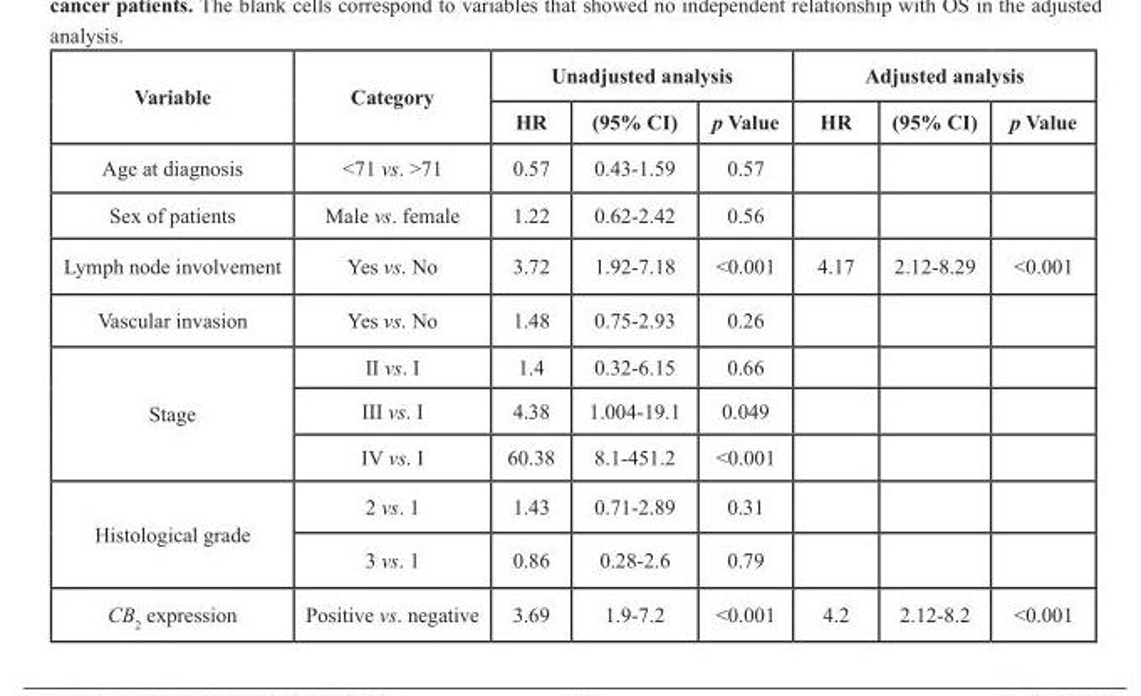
<table><thead><tr><td rowspan="2">Variable</td><td rowspan="2">Category</td><td colspan="3">Unadjusted analysis</td><td colspan="3">Adjusted analysis</td></tr><tr><td>HR</td><td>(95% CI)</td><td>p Value</td><td>HR</td><td>(95% CI)</td><td>p Value</td></tr></thead><tbody><tr><td>Age at diagnosis</td><td>&lt;71 vs. &gt;71</td><td>0.57</td><td>0.43-1.59</td><td>0.57</td><td></td><td></td><td></td></tr><tr><td>Sex of patients</td><td>Male vs. female</td><td>1.22</td><td>0.62-2.42</td><td>0.56</td><td></td><td></td><td></td></tr><tr><td>Lymph node involvement</td><td>Yes vs. No</td><td>3.72</td><td>1.92-7.18</td><td>&lt;0.001</td><td>4.17</td><td>2.12-8.29</td><td>&lt;0.001</td></tr><tr><td>Vascular invasion</td><td>Yes vs. No</td><td>1.48</td><td>0.75-2.93</td><td>0.26</td><td></td><td></td><td></td></tr><tr><td rowspan="3">Stage</td><td>II vs. I</td><td>1.4</td><td>0.32-6.15</td><td>0.66</td><td></td><td></td><td></td></tr><tr><td>III vs. I</td><td>4.38</td><td>1.004-19.1</td><td>0.049</td><td></td><td></td><td></td></tr><tr><td>IV vs. I</td><td>60.38</td><td>8.1-451.2</td><td>&lt;0.001</td><td></td><td></td><td></td></tr><tr><td rowspan="2">Histological grade</td><td>2 vs. 1</td><td>1.43</td><td>0.71-2.89</td><td>0.31</td><td></td><td></td><td></td></tr><tr><td>3 vs. 1</td><td>0.86</td><td>0.28-2.6</td><td>0.79</td><td></td><td></td><td></td></tr><tr><td>CB<sub>2</sub> expression</td><td>Positive vs. negative</td><td>3.69</td><td>1.9-7.2</td><td>&lt;0.001</td><td>4.2</td><td>2.12-8.2</td><td>&lt;0.001</td></tr></tbody></table>